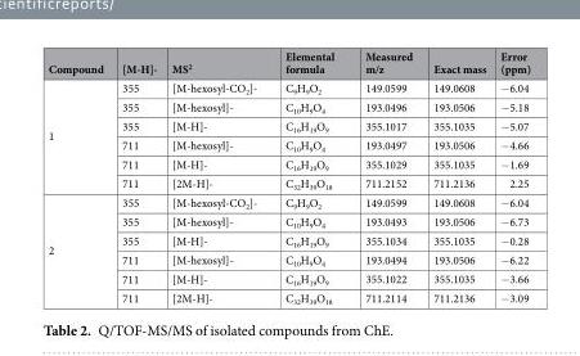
<table><thead><tr><td>Compound</td><td>[M-H]-</td><td>MS<sup>2</sup></td><td>Elemental formula</td><td>Measured m/z</td><td>Exact mass</td><td>Error (ppm)</td></tr></thead><tbody><tr><td rowspan="6">1</td><td>355</td><td>[M-hexosyl-CO<sub>2</sub>]-</td><td>C<sub>9</sub>H<sub>9</sub>O<sub>2</sub></td><td>149.0599</td><td>149.0608</td><td>−6.04</td></tr><tr><td>355</td><td>[M-hexosyl]-</td><td>C<sub>10</sub>H<sub>9</sub>O<sub>4</sub></td><td>193.0496</td><td>193.0506</td><td>−5.18</td></tr><tr><td>355</td><td>[M-H]-</td><td>C<sub>16</sub>H<sub>19</sub>O<sub>9</sub></td><td>355.1017</td><td>355.1035</td><td>−5.07</td></tr><tr><td>711</td><td>[M-hexosyl]-</td><td>C<sub>10</sub>H<sub>9</sub>O<sub>4</sub></td><td>193.0497</td><td>193.0506</td><td>−4.66</td></tr><tr><td>711</td><td>[M-H]-</td><td>C<sub>16</sub>H<sub>19</sub>O<sub>9</sub></td><td>355.1029</td><td>355.1035</td><td>−1.69</td></tr><tr><td>711</td><td>[2M-H]-</td><td>C<sub>32</sub>H<sub>39</sub>O<sub>18</sub></td><td>711.2152</td><td>711.2136</td><td>2.25</td></tr><tr><td rowspan="6">2</td><td>355</td><td>[M-hexosyl-CO<sub>2</sub>]-</td><td>C<sub>9</sub>H<sub>9</sub>O<sub>2</sub></td><td>149.0599</td><td>149.0608</td><td>−6.04</td></tr><tr><td>355</td><td>[M-hexosyl]-</td><td>C<sub>10</sub>H<sub>9</sub>O<sub>4</sub></td><td>193.0493</td><td>193.0506</td><td>−6.73</td></tr><tr><td>355</td><td>[M-H]-</td><td>C<sub>16</sub>H<sub>19</sub>O<sub>9</sub></td><td>355.1034</td><td>355.1035</td><td>−0.28</td></tr><tr><td>711</td><td>[M-hexosyl]-</td><td>C<sub>10</sub>H<sub>9</sub>O<sub>4</sub></td><td>193.0494</td><td>193.0506</td><td>−6.22</td></tr><tr><td>711</td><td>[M-H]-</td><td>C<sub>16</sub>H<sub>19</sub>O<sub>9</sub></td><td>355.1022</td><td>355.1035</td><td>−3.66</td></tr><tr><td>711</td><td>[2M-H]-</td><td>C<sub>32</sub>H<sub>39</sub>O<sub>18</sub></td><td>711.2114</td><td>711.2136</td><td>−3.09</td></tr></tbody></table>